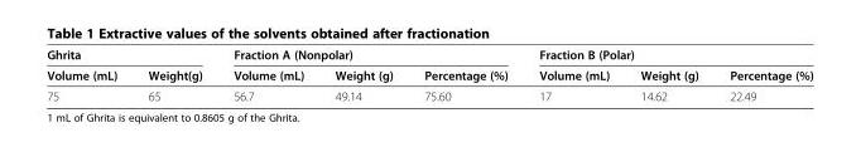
<table><thead><tr><td colspan="2">Ghrita</td><td colspan="3">Fraction A (Nonpolar)</td><td colspan="3">Fraction B (Polar)</td></tr><tr><td>Volume (mL)</td><td>Weight(g)</td><td>Volume (mL)</td><td>Weight (g)</td><td>Percentage (%)</td><td>Volume (mL)</td><td>Weight (g)</td><td>Percentage (%)</td></tr></thead><tbody><tr><td>75</td><td>65</td><td>56.7</td><td>49.14</td><td>75.60</td><td>17</td><td>14.62</td><td>22.49</td></tr></tbody></table>